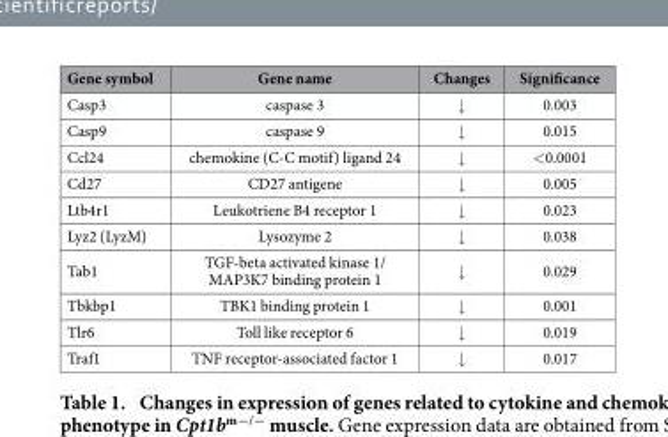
<table><thead><tr><td>Gene symbol</td><td>Gene name</td><td>Changes</td><td>Significance</td></tr></thead><tbody><tr><td>Casp3</td><td>caspase 3</td><td>↓</td><td>0.003</td></tr><tr><td>Casp9</td><td>caspase 9</td><td>↓</td><td>0.015</td></tr><tr><td>Ccl24</td><td>chemokine (C-C motif) ligand 24</td><td>↓</td><td>&lt; 0.0001</td></tr><tr><td>Cd27</td><td>CD27 antigene</td><td>↓</td><td>0.005</td></tr><tr><td>Ltb4r1</td><td>Leukotriene B4 receptor 1</td><td>↓</td><td>0.023</td></tr><tr><td>Lyz2 (LyzM)</td><td>Lysozyme 2</td><td>↓</td><td>0.038</td></tr><tr><td>Tab1</td><td>TGF-beta activated kinase 1/ MAP3K7 binding protein 1</td><td>↓</td><td>0.029</td></tr><tr><td>Tbkbp1</td><td>TBK1 binding protein 1</td><td>↓</td><td>0.001</td></tr><tr><td>Tlr6</td><td>Toll like receptor 6</td><td>↓</td><td>0.019</td></tr><tr><td>Traf1</td><td>TNF receptor-associated factor 1</td><td>↓</td><td>0.017</td></tr></tbody></table>